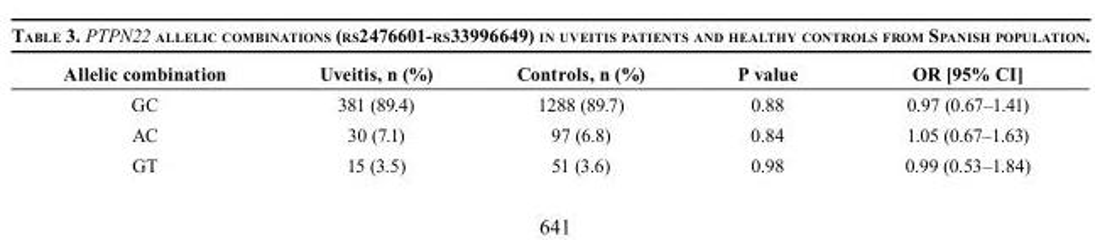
<table><thead><tr><td>Allelic combination</td><td>Uveitis, n (%)</td><td>Controls, n (%)</td><td>P value</td><td>OR [95% CI]</td></tr></thead><tbody><tr><td>GC</td><td>381 (89.4)</td><td>1288 (89.7)</td><td>0.88</td><td>0.97 (0.67–1.41)</td></tr><tr><td>AC</td><td>30 (7.1)</td><td>97 (6.8)</td><td>0.84</td><td>1.05 (0.67–1.63)</td></tr><tr><td>GT</td><td>15 (3.5)</td><td>51 (3.6)</td><td>0.98</td><td>0.99 (0.53–1.84)</td></tr></tbody></table>